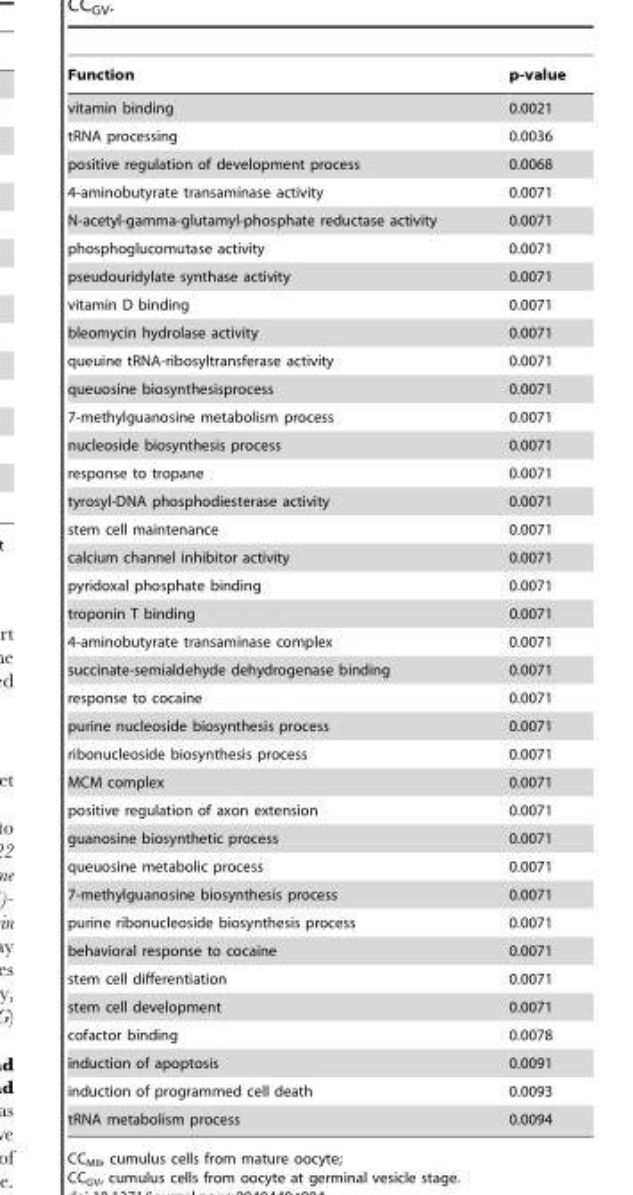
<table><thead><tr><td>Function</td><td>p-value</td></tr></thead><tbody><tr><td>vitamin binding</td><td>0.0021</td></tr><tr><td>tRNA processing</td><td>0.0036</td></tr><tr><td>positive regulation of development process</td><td>0.0068</td></tr><tr><td>4-aminobutyrate transaminase activity</td><td>0.0071</td></tr><tr><td>N-acetyl-gamma-glutamyl-phosphate reductase activity</td><td>0.0071</td></tr><tr><td>phosphoglucomutase activity</td><td>0.0071</td></tr><tr><td>pseudouridylate synthase activity</td><td>0.0071</td></tr><tr><td>vitamin D binding</td><td>0.0071</td></tr><tr><td>bleomycin hydrolase activity</td><td>0.0071</td></tr><tr><td>queuine tRNA-ribosyltransferase activity</td><td>0.0071</td></tr><tr><td>queuosine biosynthesisprocess</td><td>0.0071</td></tr><tr><td>7-methylguanosine metabolism process</td><td>0.0071</td></tr><tr><td>nucleoside biosynthesis process</td><td>0.0071</td></tr><tr><td>response to tropane</td><td>0.0071</td></tr><tr><td>tyrosyl-DNA phosphodiesterase activity</td><td>0.0071</td></tr><tr><td>stem cell maintenance</td><td>0.0071</td></tr><tr><td>calcium channel inhibitor activity</td><td>0.0071</td></tr><tr><td>pyridoxal phosphate binding</td><td>0.0071</td></tr><tr><td>troponin T binding</td><td>0.0071</td></tr><tr><td>4-aminobutyrate transaminase complex</td><td>0.0071</td></tr><tr><td>succinate-semialdehyde dehydrogenase binding</td><td>0.0071</td></tr><tr><td>response to cocaine</td><td>0.0071</td></tr><tr><td>purine nucleoside biosynthesis process</td><td>0.0071</td></tr><tr><td>ribonucleoside biosynthesis process</td><td>0.0071</td></tr><tr><td>MCM complex</td><td>0.0071</td></tr><tr><td>positive regulation of axon extension</td><td>0.0071</td></tr><tr><td>guanosine biosynthetic process</td><td>0.0071</td></tr><tr><td>queuosine metabolic process</td><td>0.0071</td></tr><tr><td>7-methylguanosine biosynthesis process</td><td>0.0071</td></tr><tr><td>purine ribonucleoside biosynthesis process</td><td>0.0071</td></tr><tr><td>behavioral response to cocaine</td><td>0.0071</td></tr><tr><td>stem cell differentiation</td><td>0.0071</td></tr><tr><td>stem cell development</td><td>0.0071</td></tr><tr><td>cofactor binding</td><td>0.0078</td></tr><tr><td>induction of apoptosis</td><td>0.0091</td></tr><tr><td>induction of programmed cell death</td><td>0.0093</td></tr><tr><td>tRNA metabolism process</td><td>0.0094</td></tr></tbody></table>